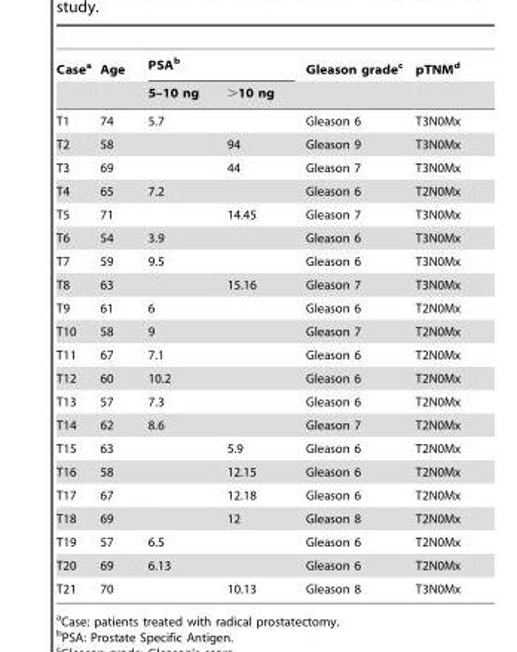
<table><thead><tr><td rowspan="2">Case<sup>a</sup></td><td rowspan="2">Age</td><td colspan="2">PSA<sup>b</sup></td><td rowspan="2">Gleason grade<sup>c</sup></td><td rowspan="2">pTNM<sup>d</sup></td></tr><tr><td>5–10 ng</td><td>&gt;10 ng</td></tr></thead><tbody><tr><td>T1</td><td>74</td><td>5.7</td><td></td><td>Gleason 6</td><td>T3N0Mx</td></tr><tr><td>T2</td><td>58</td><td></td><td>94</td><td>Gleason 9</td><td>T3N0Mx</td></tr><tr><td>T3</td><td>69</td><td></td><td>44</td><td>Gleason 7</td><td>T3N0Mx</td></tr><tr><td>T4</td><td>65</td><td>7.2</td><td></td><td>Gleason 6</td><td>T2N0Mx</td></tr><tr><td>T5</td><td>71</td><td></td><td>14.45</td><td>Gleason 7</td><td>T3N0Mx</td></tr><tr><td>T6</td><td>54</td><td>3.9</td><td></td><td>Gleason 6</td><td>T3N0Mx</td></tr><tr><td>T7</td><td>59</td><td>9.5</td><td></td><td>Gleason 6</td><td>T3N0Mx</td></tr><tr><td>T8</td><td>63</td><td></td><td>15.16</td><td>Gleason 7</td><td>T3N0Mx</td></tr><tr><td>T9</td><td>61</td><td>6</td><td></td><td>Gleason 6</td><td>T2N0Mx</td></tr><tr><td>T10</td><td>58</td><td>9</td><td></td><td>Gleason 7</td><td>T2N0Mx</td></tr><tr><td>T11</td><td>67</td><td>7.1</td><td></td><td>Gleason 6</td><td>T2N0Mx</td></tr><tr><td>T12</td><td>60</td><td>10.2</td><td></td><td>Gleason 6</td><td>T2N0Mx</td></tr><tr><td>T13</td><td>57</td><td>7.3</td><td></td><td>Gleason 6</td><td>T2N0Mx</td></tr><tr><td>T14</td><td>62</td><td>8.6</td><td></td><td>Gleason 7</td><td>T2N0Mx</td></tr><tr><td>T15</td><td>63</td><td></td><td>5.9</td><td>Gleason 6</td><td>T2N0Mx</td></tr><tr><td>T16</td><td>58</td><td></td><td>12.15</td><td>Gleason 6</td><td>T2N0Mx</td></tr><tr><td>T17</td><td>67</td><td></td><td>12.18</td><td>Gleason 6</td><td>T2N0Mx</td></tr><tr><td>T18</td><td>69</td><td></td><td>12</td><td>Gleason 8</td><td>T2N0Mx</td></tr><tr><td>T19</td><td>57</td><td>6.5</td><td></td><td>Gleason 6</td><td>T2N0Mx</td></tr><tr><td>T20</td><td>69</td><td>6.13</td><td></td><td>Gleason 6</td><td>T2N0Mx</td></tr><tr><td>T21</td><td>70</td><td></td><td>10.13</td><td>Gleason 8</td><td>T3N0Mx</td></tr></tbody></table>